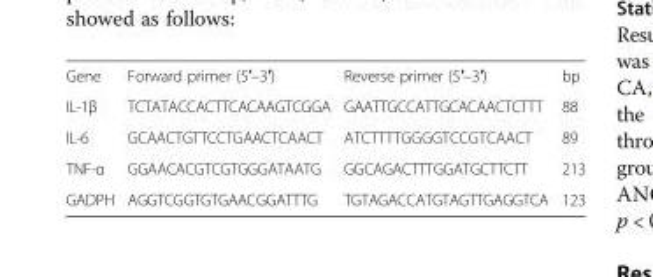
<table><tbody><tr><td>Gene</td><td>Forward primer (5′–3′)</td><td>Reverse primer (5′–3′)</td><td>bp</td></tr><tr><td>IL-1β</td><td>TCTATACCACTTCACAAGTCGGA</td><td>GAATTGCCATTGCACAACTCTTT</td><td>88</td></tr><tr><td>IL-6</td><td>GCAACTGTTCCTGAACTCAACT</td><td>ATCTTTTGGGGTCCGTCAACT</td><td>89</td></tr><tr><td>TNF-α</td><td>GGAACACGTCGTGGGATAATG</td><td>GGCAGACTTTGGATGCTTCTT</td><td>213</td></tr><tr><td>GADPH</td><td>AGGTCGGTGTGAACGGATTTG</td><td>TGTAGACCATGTAGTTGAGGTCA</td><td>123</td></tr></tbody></table>